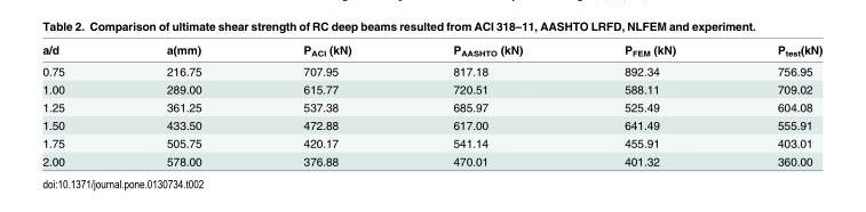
<table><thead><tr><td>a/d</td><td>a(mm)</td><td>P<sub>ACI</sub> (kN)</td><td>P<sub>AASHTO</sub> (kN)</td><td>P<sub>FEM</sub> (kN)</td><td>P<sub>test</sub>(kN)</td></tr></thead><tbody><tr><td>0.75</td><td>216.75</td><td>707.95</td><td>817.18</td><td>892.34</td><td>756.95</td></tr><tr><td>1.00</td><td>289.00</td><td>615.77</td><td>720.51</td><td>588.11</td><td>709.02</td></tr><tr><td>1.25</td><td>361.25</td><td>537.38</td><td>685.97</td><td>525.49</td><td>604.08</td></tr><tr><td>1.50</td><td>433.50</td><td>472.88</td><td>617.00</td><td>641.49</td><td>555.91</td></tr><tr><td>1.75</td><td>505.75</td><td>420.17</td><td>541.14</td><td>455.91</td><td>403.01</td></tr><tr><td>2.00</td><td>578.00</td><td>376.88</td><td>470.01</td><td>401.32</td><td>360.00</td></tr></tbody></table>